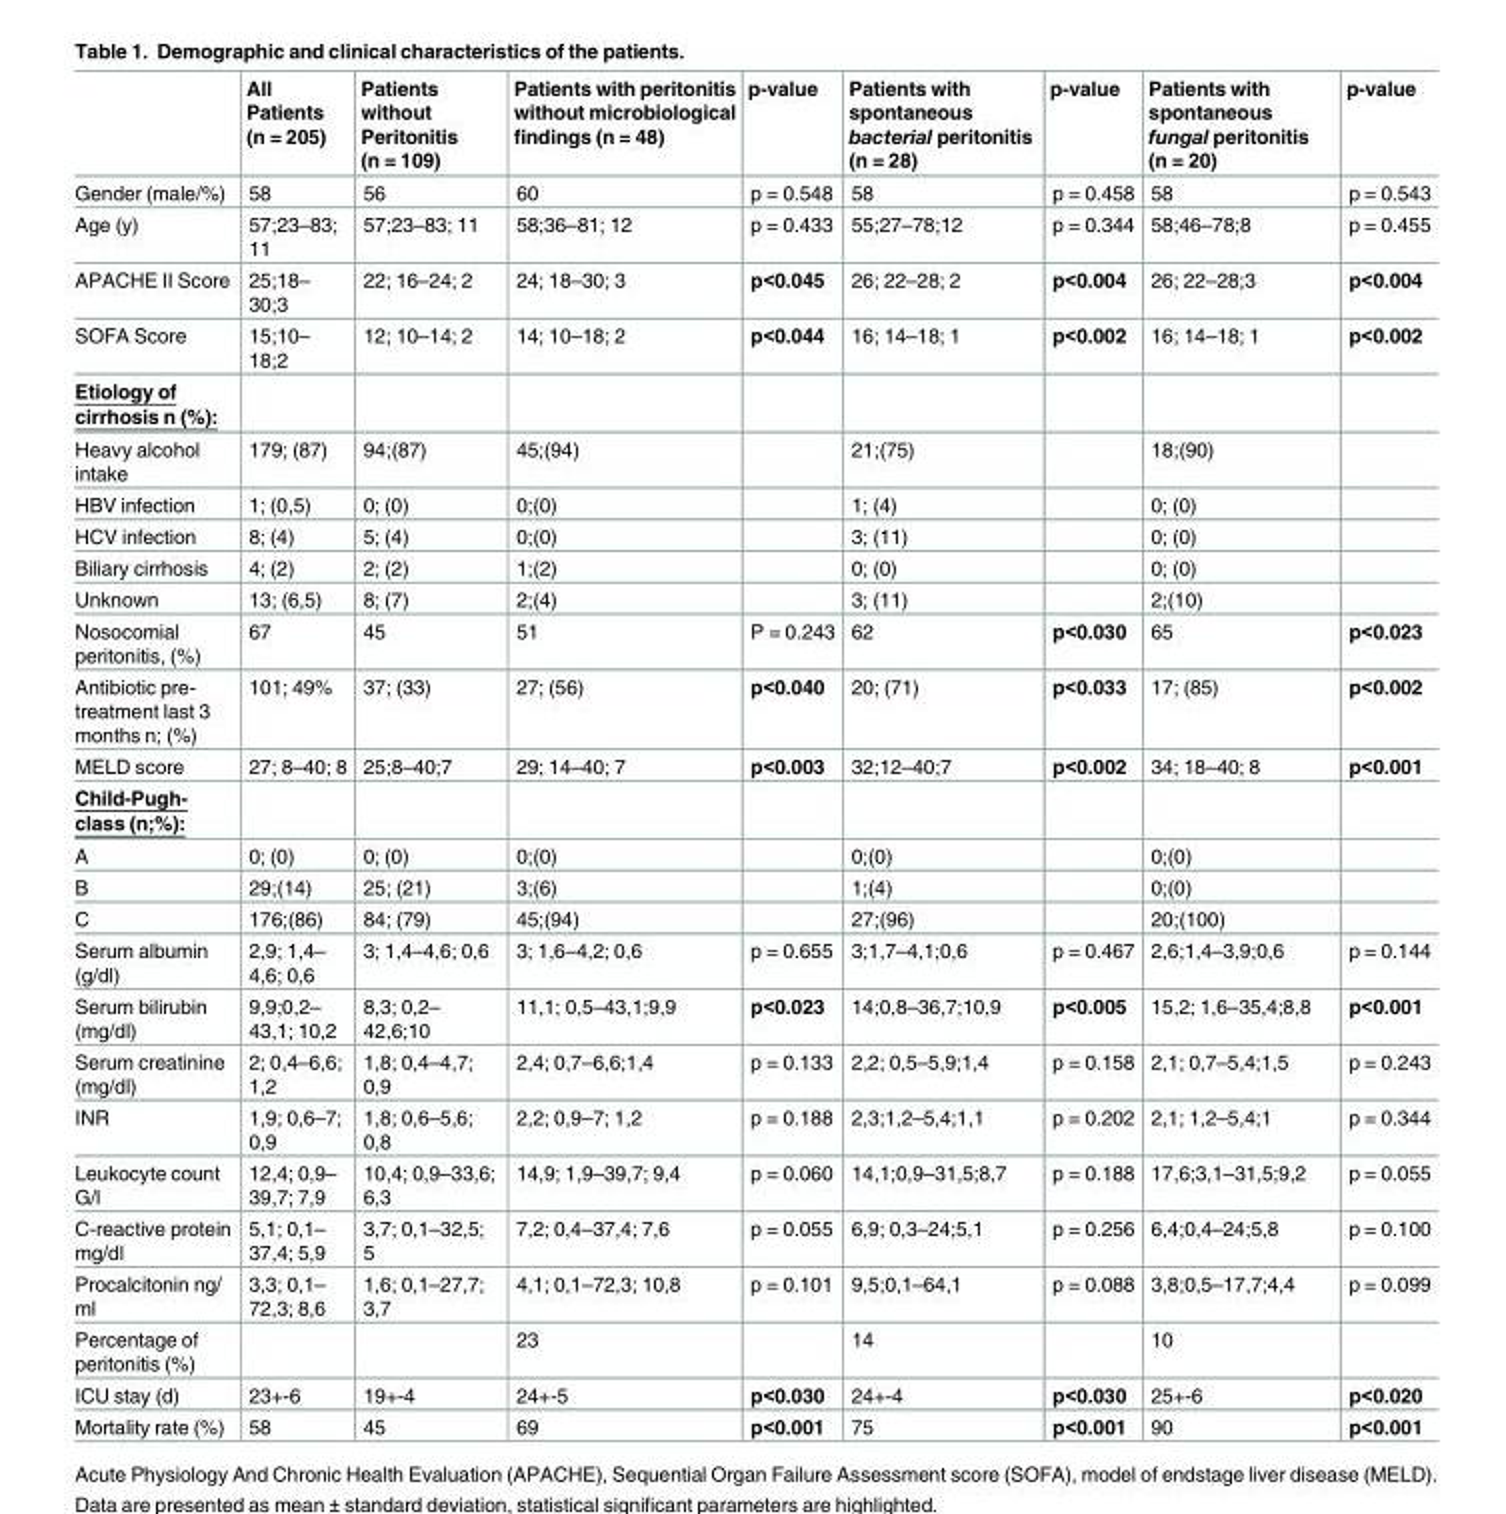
<table><thead><tr><td></td><td>All Patients (n = 205)</td><td>Patients without Peritonitis (n = 109)</td><td>Patients with peritonitis without microbiological findings (n = 48)</td><td>p-value</td><td>Patients with spontaneous bacterial peritonitis (n = 28)</td><td>p-value</td><td>Patients with spontaneous fungal peritonitis (n = 20)</td><td>p-value</td></tr></thead><tbody><tr><td>Gender (male/%)</td><td>58</td><td>56</td><td>60</td><td>p = 0.548</td><td>58</td><td>p = 0.458</td><td>58</td><td>p = 0.543</td></tr><tr><td>Age (y)</td><td>57;23–83; 11</td><td>57;23–83; 11</td><td>58;36–81; 12</td><td>p = 0.433</td><td>55;27–78;12</td><td>p = 0.344</td><td>58;46–78;8</td><td>p = 0.455</td></tr><tr><td>APACHE II Score</td><td>25;18– 30;3</td><td>22; 16–24; 2</td><td>24; 18–30; 3</td><td>p&lt;0.045</td><td>26; 22–28; 2</td><td>p&lt;0.004</td><td>26; 22–28;3</td><td>p&lt;0.004</td></tr><tr><td>SOFA Score</td><td>15;10– 18;2</td><td>12; 10–14; 2</td><td>14; 10–18; 2</td><td>p&lt;0.044</td><td>16; 14–18; 1</td><td>p&lt;0.002</td><td>16; 14–18; 1</td><td>p&lt;0.002</td></tr><tr><td colspan="9">Etiology of cirrhosis n (%):</td></tr><tr><td>Heavy alcohol intake</td><td>179; (87)</td><td>94;(87)</td><td>45;(94)</td><td></td><td>21;(75)</td><td></td><td>18;(90)</td><td></td></tr><tr><td>HBV infection</td><td>1; (0,5)</td><td>0; (0)</td><td>0;(0)</td><td></td><td>1; (4)</td><td></td><td>0; (0)</td><td></td></tr><tr><td>HCV infection</td><td>8; (4)</td><td>5; (4)</td><td>0;(0)</td><td></td><td>3; (11)</td><td></td><td>0; (0)</td><td></td></tr><tr><td>Biliary cirrhosis</td><td>4; (2)</td><td>2; (2)</td><td>1;(2)</td><td></td><td>0; (0)</td><td></td><td>0; (0)</td><td></td></tr><tr><td>Unknown</td><td>13; (6,5)</td><td>8; (7)</td><td>2;(4)</td><td></td><td>3; (11)</td><td></td><td>2;(10)</td><td></td></tr><tr><td>Nosocomial peritonitis, (%)</td><td>67</td><td>45</td><td>51</td><td>P = 0.243</td><td>62</td><td>p&lt;0.030</td><td>65</td><td>p&lt;0.023</td></tr><tr><td>Antibiotic pre- treatment last 3 months n; (%)</td><td>101; 49%</td><td>37; (33)</td><td>27; (56)</td><td>p&lt;0.040</td><td>20; (71)</td><td>p&lt;0.033</td><td>17; (85)</td><td>p&lt;0.002</td></tr><tr><td>MELD score</td><td>27; 8–40; 8</td><td>25;8–40;7</td><td>29; 14–40; 7</td><td>p&lt;0.003</td><td>32;12–40;7</td><td>p&lt;0.002</td><td>34; 18–40; 8</td><td>p&lt;0.001</td></tr><tr><td colspan="9">Child-Pugh- class (n;%):</td></tr><tr><td>A</td><td>0; (0)</td><td>0; (0)</td><td>0;(0)</td><td></td><td>0;(0)</td><td></td><td>0;(0)</td><td></td></tr><tr><td>B</td><td>29;(14)</td><td>25; (21)</td><td>3;(6)</td><td></td><td>1;(4)</td><td></td><td>0;(0)</td><td></td></tr><tr><td>C</td><td>176;(86)</td><td>84; (79)</td><td>45;(94)</td><td></td><td>27;(96)</td><td></td><td>20;(100)</td><td></td></tr><tr><td>Serum albumin (g/dl)</td><td>2,9; 1,4– 4,6; 0,6</td><td>3; 1,4–4,6; 0,6</td><td>3; 1,6–4,2; 0,6</td><td>p = 0.655</td><td>3;1,7–4,1;0,6</td><td>p = 0.467</td><td>2,6;1,4–3,9;0,6</td><td>p = 0.144</td></tr><tr><td>Serum bilirubin (mg/dl)</td><td>9,9;0,2– 43,1; 10,2</td><td>8,3; 0,2– 42,6;10</td><td>11,1; 0,5–43,1;9,9</td><td>p&lt;0.023</td><td>14;0,8–36,7;10,9</td><td>p&lt;0.005</td><td>15,2; 1,6–35,4;8,8</td><td>p&lt;0.001</td></tr><tr><td>Serum creatinine (mg/dl)</td><td>2; 0,4–6,6; 1,2</td><td>1,8; 0,4–4,7; 0,9</td><td>2,4; 0,7–6,6;1,4</td><td>p = 0.133</td><td>2,2; 0,5–5,9;1,4</td><td>p = 0.158</td><td>2,1; 0,7–5,4;1,5</td><td>p = 0.243</td></tr><tr><td>INR</td><td>1,9; 0,6–7; 0,9</td><td>1,8; 0,6–5,6; 0,8</td><td>2,2; 0,9–7; 1,2</td><td>p = 0.188</td><td>2,3;1,2–5,4;1,1</td><td>p = 0.202</td><td>2,1; 1,2–5,4;1</td><td>p = 0.344</td></tr><tr><td>Leukocyte count G/l</td><td>12,4; 0,9– 39,7; 7,9</td><td>10,4; 0,9–33,6; 6,3</td><td>14,9; 1,9–39,7; 9,4</td><td>p = 0.060</td><td>14,1;0,9–31,5;8,7</td><td>p = 0.188</td><td>17,6;3,1–31,5;9,2</td><td>p = 0.055</td></tr><tr><td>C-reactive protein mg/dl</td><td>5,1; 0,1– 37,4; 5,9</td><td>3,7; 0,1–32,5; 5</td><td>7,2; 0,4–37,4; 7,6</td><td>p = 0.055</td><td>6,9; 0,3–24;5,1</td><td>p = 0.256</td><td>6,4;0,4–24;5,8</td><td>p = 0.100</td></tr><tr><td>Procalcitonin ng/ ml</td><td>3,3; 0,1– 72,3; 8,6</td><td>1,6; 0,1–27,7; 3,7</td><td>4,1; 0,1–72,3; 10,8</td><td>p = 0.101</td><td>9,5;0,1–64,1</td><td>p = 0.088</td><td>3,8;0,5–17,7;4,4</td><td>p = 0.099</td></tr><tr><td>Percentage of peritonitis (%)</td><td></td><td></td><td>23</td><td></td><td>14</td><td></td><td>10</td><td></td></tr><tr><td>ICU stay (d)</td><td>23+-6</td><td>19+-4</td><td>24+-5</td><td>p&lt;0.030</td><td>24+-4</td><td>p&lt;0.030</td><td>25+-6</td><td>p&lt;0.020</td></tr><tr><td>Mortality rate (%)</td><td>58</td><td>45</td><td>69</td><td>p&lt;0.001</td><td>75</td><td>p&lt;0.001</td><td>90</td><td>p&lt;0.001</td></tr></tbody></table>